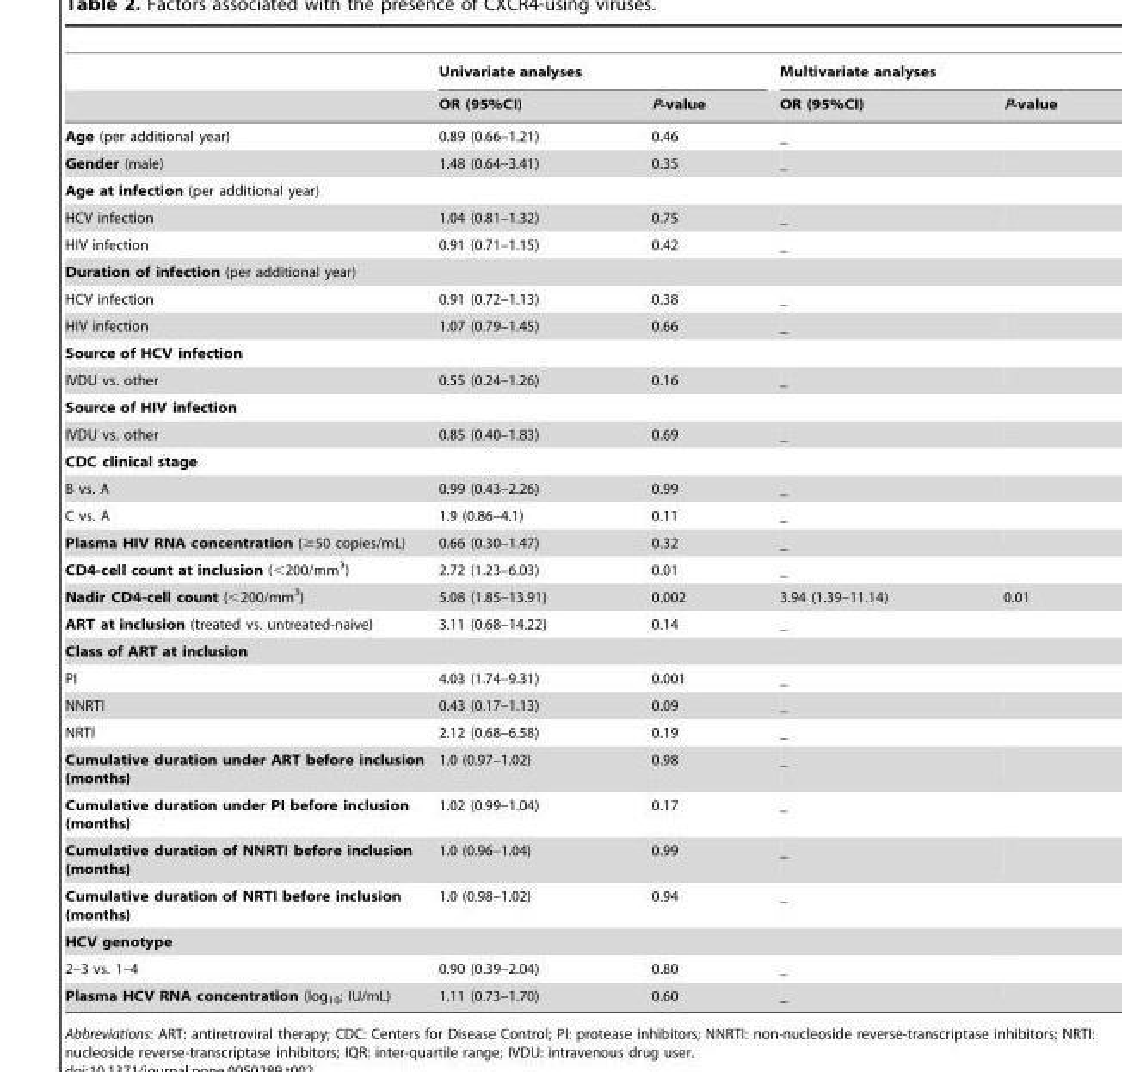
<table><thead><tr><td rowspan="2"></td><td colspan="2">Univariate analyses</td><td colspan="2">Multivariate analyses</td></tr><tr><td>OR (95%CI)</td><td>P-value</td><td>OR (95%CI)</td><td>P-value</td></tr></thead><tbody><tr><td>Age (per additional year)</td><td>0.89 (0.66–1.21)</td><td>0.46</td><td>_</td><td></td></tr><tr><td>Gender (male)</td><td>1.48 (0.64–3.41)</td><td>0.35</td><td>_</td><td></td></tr><tr><td colspan="5">Age at infection (per additional year)</td></tr><tr><td>HCV infection</td><td>1.04 (0.81–1.32)</td><td>0.75</td><td>_</td><td></td></tr><tr><td>HIV infection</td><td>0.91 (0.71–1.15)</td><td>0.42</td><td>_</td><td></td></tr><tr><td colspan="5">Duration of infection (per additional year)</td></tr><tr><td>HCV infection</td><td>0.91 (0.72–1.13)</td><td>0.38</td><td>_</td><td></td></tr><tr><td>HIV infection</td><td>1.07 (0.79–1.45)</td><td>0.66</td><td>_</td><td></td></tr><tr><td colspan="5">Source of HCV infection</td></tr><tr><td>IVDU vs. other</td><td>0.55 (0.24–1.26)</td><td>0.16</td><td>_</td><td></td></tr><tr><td colspan="5">Source of HIV infection</td></tr><tr><td>IVDU vs. other</td><td>0.85 (0.40–1.83)</td><td>0.69</td><td>_</td><td></td></tr><tr><td colspan="5">CDC clinical stage</td></tr><tr><td>B vs. A</td><td>0.99 (0.43–2.26)</td><td>0.99</td><td>_</td><td></td></tr><tr><td>C vs. A</td><td>1.9 (0.86–4.1)</td><td>0.11</td><td>_</td><td></td></tr><tr><td>Plasma HIV RNA concentration (≥50 copies/mL)</td><td>0.66 (0.30–1.47)</td><td>0.32</td><td>_</td><td></td></tr><tr><td>CD4-cell count at inclusion (&lt;200/mm<sup>3</sup>)</td><td>2.72 (1.23–6.03)</td><td>0.01</td><td>_</td><td></td></tr><tr><td>Nadir CD4-cell count (&lt;200/mm<sup>3</sup>)</td><td>5.08 (1.85–13.91)</td><td>0.002</td><td>3.94 (1.39–11.14)</td><td>0.01</td></tr><tr><td>ART at inclusion (treated vs. untreated-naive)</td><td>3.11 (0.68–14.22)</td><td>0.14</td><td>_</td><td></td></tr><tr><td colspan="5">Class of ART at inclusion</td></tr><tr><td>PI</td><td>4.03 (1.74–9.31)</td><td>0.001</td><td>_</td><td></td></tr><tr><td>NNRTI</td><td>0.43 (0.17–1.13)</td><td>0.09</td><td>_</td><td></td></tr><tr><td>NRTI</td><td>2.12 (0.68–6.58)</td><td>0.19</td><td>_</td><td></td></tr><tr><td>Cumulative duration under ART before inclusion (months)</td><td>1.0 (0.97–1.02)</td><td>0.98</td><td>_</td><td></td></tr><tr><td>Cumulative duration under PI before inclusion (months)</td><td>1.02 (0.99–1.04)</td><td>0.17</td><td>_</td><td></td></tr><tr><td>Cumulative duration of NNRTI before inclusion (months)</td><td>1.0 (0.96–1.04)</td><td>0.99</td><td>_</td><td></td></tr><tr><td>Cumulative duration of NRTI before inclusion (months)</td><td>1.0 (0.98–1.02)</td><td>0.94</td><td>_</td><td></td></tr><tr><td colspan="5">HCV genotype</td></tr><tr><td>2–3 vs. 1–4</td><td>0.90 (0.39–2.04)</td><td>0.80</td><td>_</td><td></td></tr><tr><td>Plasma HCV RNA concentration (log<sub>10</sub>; IU/mL)</td><td>1.11 (0.73–1.70)</td><td>0.60</td><td>_</td><td></td></tr></tbody></table>